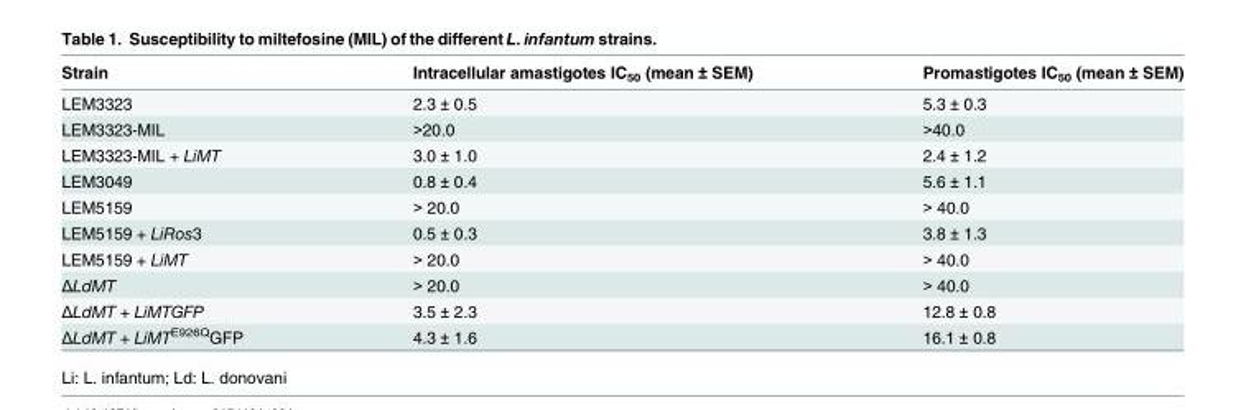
<table><thead><tr><td>Strain</td><td>Intracellular amastigotes IC<sub>50</sub> (mean ± SEM)</td><td>Promastigotes IC<sub>50</sub> (mean ± SEM)</td></tr></thead><tbody><tr><td>LEM3323</td><td>2.3 ± 0.5</td><td>5.3 ± 0.3</td></tr><tr><td>LEM3323-MIL</td><td>&gt;20.0</td><td>&gt;40.0</td></tr><tr><td>LEM3323-MIL + LiMT</td><td>3.0 ± 1.0</td><td>2.4 ± 1.2</td></tr><tr><td>LEM3049</td><td>0.8 ± 0.4</td><td>5.6 ± 1.1</td></tr><tr><td>LEM5159</td><td>&gt; 20.0</td><td>&gt; 40.0</td></tr><tr><td>LEM5159 + LiRos3</td><td>0.5 ± 0.3</td><td>3.8 ± 1.3</td></tr><tr><td>LEM5159 + LiMT</td><td>&gt; 20.0</td><td>&gt; 40.0</td></tr><tr><td>ΔLdMT</td><td>&gt; 20.0</td><td>&gt; 40.0</td></tr><tr><td>ΔLdMT + LiMTGFP</td><td>3.5 ± 2.3</td><td>12.8 ± 0.8</td></tr><tr><td>ΔLdMT + LiMT<sup>E926Q</sup>GFP</td><td>4.3 ± 1.6</td><td>16.1 ± 0.8</td></tr></tbody></table>